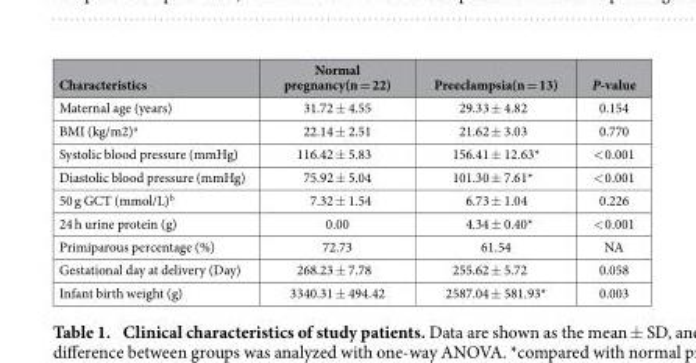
<table><thead><tr><td>Characteristics</td><td>Normal pregnancy(n = 22)</td><td>Preeclampsia(n = 13)</td><td>P-value</td></tr></thead><tbody><tr><td>Maternal age (years)</td><td>31.72 ± 4.55</td><td>29.33 ± 4.82</td><td>0.154</td></tr><tr><td>BMI (kg/m2)<sup>a</sup></td><td>22.14 ± 2.51</td><td>21.62 ± 3.03</td><td>0.770</td></tr><tr><td>Systolic blood pressure (mmHg)</td><td>116.42 ± 5.83</td><td>156.41 ± 12.63*</td><td>&lt; 0.001</td></tr><tr><td>Diastolic blood pressure (mmHg)</td><td>75.92 ± 5.04</td><td>101.30 ± 7.61*</td><td>&lt; 0.001</td></tr><tr><td>50 g GCT (mmol/L)<sup>b</sup></td><td>7.32 ± 1.54</td><td>6.73 ± 1.04</td><td>0.226</td></tr><tr><td>24 h urine protein (g)</td><td>0.00</td><td>4.34 ± 0.40*</td><td>&lt; 0.001</td></tr><tr><td>Primiparous percentage (%)</td><td>72.73</td><td>61.54</td><td>NA</td></tr><tr><td>Gestational day at delivery (Day)</td><td>268.23 ± 7.78</td><td>255.62 ± 5.72</td><td>0.058</td></tr><tr><td>Infant birth weight (g)</td><td>3340.31 ± 494.42</td><td>2587.04 ± 581.93*</td><td>0.003</td></tr></tbody></table>